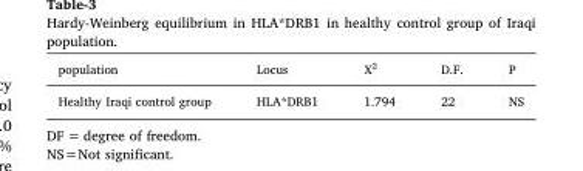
<table><thead><tr><td>population</td><td>Locus</td><td>X<sup>2</sup></td><td>D.F.</td><td>P</td></tr></thead><tbody><tr><td>Healthy Iraqi control group</td><td>HLA*DRB1</td><td>1.794</td><td>22</td><td>NS</td></tr></tbody></table>